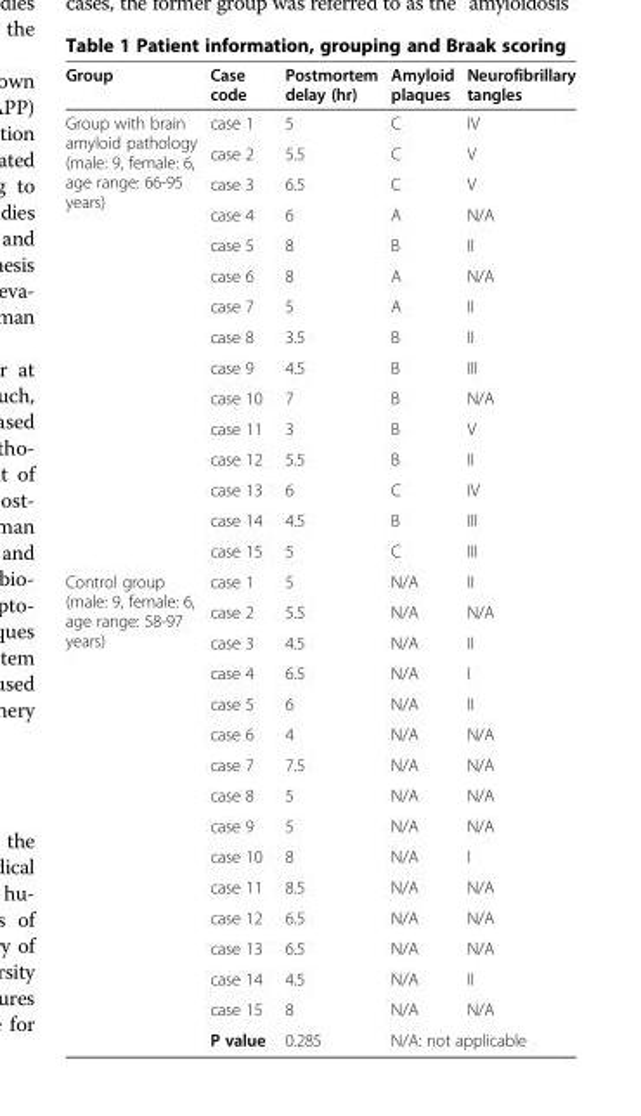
<table><thead><tr><td>Group</td><td>Case code</td><td>Postmortem delay (hr)</td><td>Amyloid plaques</td><td>Neurofibrillary tangles</td></tr></thead><tbody><tr><td rowspan="15">Group with brain amyloid pathology (male: 9, female: 6, age range: 66-95 years)</td><td>case 1</td><td>5</td><td>C</td><td>IV</td></tr><tr><td>case 2</td><td>5.5</td><td>C</td><td>V</td></tr><tr><td>case 3</td><td>6.5</td><td>C</td><td>V</td></tr><tr><td>case 4</td><td>6</td><td>A</td><td>N/A</td></tr><tr><td>case 5</td><td>8</td><td>B</td><td>II</td></tr><tr><td>case 6</td><td>8</td><td>A</td><td>N/A</td></tr><tr><td>case 7</td><td>5</td><td>A</td><td>II</td></tr><tr><td>case 8</td><td>3.5</td><td>B</td><td>II</td></tr><tr><td>case 9</td><td>4.5</td><td>B</td><td>III</td></tr><tr><td>case 10</td><td>7</td><td>B</td><td>N/A</td></tr><tr><td>case 11</td><td>3</td><td>B</td><td>V</td></tr><tr><td>case 12</td><td>5.5</td><td>B</td><td>II</td></tr><tr><td>case 13</td><td>6</td><td>C</td><td>IV</td></tr><tr><td>case 14</td><td>4.5</td><td>B</td><td>III</td></tr><tr><td>case 15</td><td>5</td><td>C</td><td>III</td></tr><tr><td rowspan="16">Control group (male: 9, female: 6, age range: 58-97 years)</td><td>case 1</td><td>5</td><td>N/A</td><td>II</td></tr><tr><td>case 2</td><td>5.5</td><td>N/A</td><td>N/A</td></tr><tr><td>case 3</td><td>4.5</td><td>N/A</td><td>II</td></tr><tr><td>case 4</td><td>6.5</td><td>N/A</td><td>I</td></tr><tr><td>case 5</td><td>6</td><td>N/A</td><td>II</td></tr><tr><td>case 6</td><td>4</td><td>N/A</td><td>N/A</td></tr><tr><td>case 7</td><td>7.5</td><td>N/A</td><td>N/A</td></tr><tr><td>case 8</td><td>5</td><td>N/A</td><td>N/A</td></tr><tr><td>case 9</td><td>5</td><td>N/A</td><td>N/A</td></tr><tr><td>case 10</td><td>8</td><td>N/A</td><td>I</td></tr><tr><td>case 11</td><td>8.5</td><td>N/A</td><td>N/A</td></tr><tr><td>case 12</td><td>6.5</td><td>N/A</td><td>N/A</td></tr><tr><td>case 13</td><td>6.5</td><td>N/A</td><td>N/A</td></tr><tr><td>case 14</td><td>4.5</td><td>N/A</td><td>II</td></tr><tr><td>case 15</td><td>8</td><td>N/A</td><td>N/A</td></tr><tr><td>P value</td><td>0.285</td><td colspan="2">N/A: not applicable</td></tr></tbody></table>